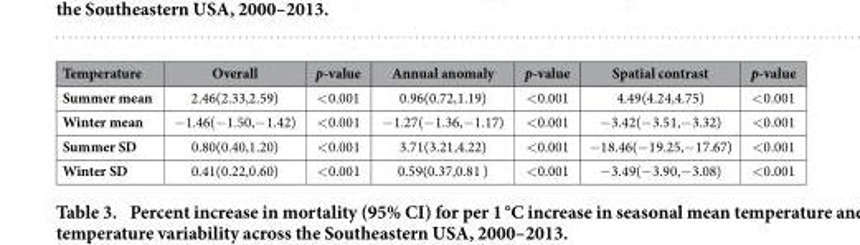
<table><thead><tr><td>Temperature</td><td>Overall</td><td>p-value</td><td>Annual anomaly</td><td>p-value</td><td>Spatial contrast</td><td>p-value</td></tr></thead><tbody><tr><td>Summer mean</td><td>2.46(2.33,2.59)</td><td>&lt; 0.001</td><td>0.96(0.72,1.19)</td><td>&lt; 0.001</td><td>4.49(4.24,4.75)</td><td>&lt; 0.001</td></tr><tr><td>Winter mean</td><td>− 1.46(− 1.50,− 1.42)</td><td>&lt; 0.001</td><td>− 1.27(− 1.36,− 1.17)</td><td>&lt; 0.001</td><td>− 3.42(− 3.51,− 3.32)</td><td>&lt; 0.001</td></tr><tr><td>Summer SD</td><td>0.80(0.40,1.20)</td><td>&lt; 0.001</td><td>3.71(3.21,4.22)</td><td>&lt; 0.001</td><td>− 18.46(− 19.25,− 17.67)</td><td>&lt; 0.001</td></tr><tr><td>Winter SD</td><td>0.41(0.22,0.60)</td><td>&lt; 0.001</td><td>0.59(0.37,0.81 )</td><td>&lt; 0.001</td><td>− 3.49(− 3.90,− 3.08)</td><td>&lt; 0.001</td></tr></tbody></table>